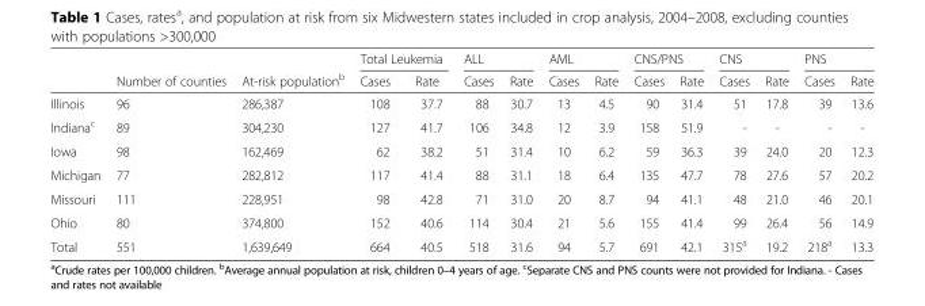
<table><thead><tr><td rowspan="2"></td><td rowspan="2">Number of counties</td><td rowspan="2">At-risk population<sup>b</sup></td><td colspan="2">Total Leukemia</td><td colspan="2">ALL</td><td colspan="2">AML</td><td colspan="2">CNS/PNS</td><td colspan="2">CNS</td><td colspan="2">PNS</td></tr><tr><td>Cases</td><td>Rate</td><td>Cases</td><td>Rate</td><td>Cases</td><td>Rate</td><td>Cases</td><td>Rate</td><td>Cases</td><td>Rate</td><td>Cases</td><td>Rate</td></tr></thead><tbody><tr><td>Illinois</td><td>96</td><td>286,387</td><td>108</td><td>37.7</td><td>88</td><td>30.7</td><td>13</td><td>4.5</td><td>90</td><td>31.4</td><td>51</td><td>17.8</td><td>39</td><td>13.6</td></tr><tr><td>Indiana<sup>c</sup></td><td>89</td><td>304,230</td><td>127</td><td>41.7</td><td>106</td><td>34.8</td><td>12</td><td>3.9</td><td>158</td><td>51.9</td><td>-</td><td>-</td><td>-</td><td>-</td></tr><tr><td>Iowa</td><td>98</td><td>162,469</td><td>62</td><td>38.2</td><td>51</td><td>31.4</td><td>10</td><td>6.2</td><td>59</td><td>36.3</td><td>39</td><td>24.0</td><td>20</td><td>12.3</td></tr><tr><td>Michigan</td><td>77</td><td>282,812</td><td>117</td><td>41.4</td><td>88</td><td>31.1</td><td>18</td><td>6.4</td><td>135</td><td>47.7</td><td>78</td><td>27.6</td><td>57</td><td>20.2</td></tr><tr><td>Missouri</td><td>111</td><td>228,951</td><td>98</td><td>42.8</td><td>71</td><td>31.0</td><td>20</td><td>8.7</td><td>94</td><td>41.1</td><td>48</td><td>21.0</td><td>46</td><td>20.1</td></tr><tr><td>Ohio</td><td>80</td><td>374,800</td><td>152</td><td>40.6</td><td>114</td><td>30.4</td><td>21</td><td>5.6</td><td>155</td><td>41.4</td><td>99</td><td>26.4</td><td>56</td><td>14.9</td></tr><tr><td>Total</td><td>551</td><td>1,639,649</td><td>664</td><td>40.5</td><td>518</td><td>31.6</td><td>94</td><td>5.7</td><td>691</td><td>42.1</td><td>315<sup>a</sup></td><td>19.2</td><td>218<sup>a</sup></td><td>13.3</td></tr></tbody></table>